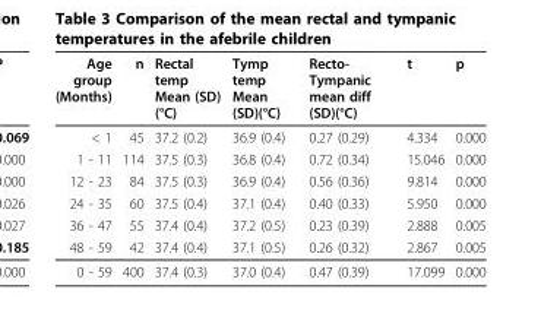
<table><thead><tr><td>Age group (Months)</td><td>n</td><td>Rectal temp Mean (SD) (°C)</td><td>Tymp temp Mean (SD)(°C)</td><td>Recto- Tympanic mean diff (SD)(°C)</td><td>t</td><td>p</td></tr></thead><tbody><tr><td>&lt; 1</td><td>45</td><td>37.2 (0.2)</td><td>36.9 (0.4)</td><td>0.27 (0.29)</td><td>4.334</td><td>0.000</td></tr><tr><td>1 - 11</td><td>114</td><td>37.5 (0.3)</td><td>36.8 (0.4)</td><td>0.72 (0.34)</td><td>15.046</td><td>0.000</td></tr><tr><td>12 - 23</td><td>84</td><td>37.5 (0.3)</td><td>36.9 (0.4)</td><td>0.56 (0.36)</td><td>9.814</td><td>0.000</td></tr><tr><td>24 - 35</td><td>60</td><td>37.5 (0.4)</td><td>37.1 (0.4)</td><td>0.40 (0.33)</td><td>5.950</td><td>0.000</td></tr><tr><td>36 - 47</td><td>55</td><td>37.4 (0.4)</td><td>37.2 (0.5)</td><td>0.23 (0.39)</td><td>2.888</td><td>0.005</td></tr><tr><td>48 - 59</td><td>42</td><td>37.4 (0.4)</td><td>37.1 (0.5)</td><td>0.26 (0.32)</td><td>2.867</td><td>0.005</td></tr><tr><td>0 - 59</td><td>400</td><td>37.4 (0.3)</td><td>37.0 (0.4)</td><td>0.47 (0.39)</td><td>17.099</td><td>0.000</td></tr></tbody></table>